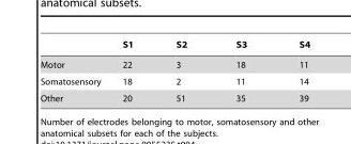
<table><thead><tr><td></td><td>S1</td><td>S2</td><td>S3</td><td>S4</td></tr></thead><tbody><tr><td>Motor</td><td>22</td><td>3</td><td>18</td><td>11</td></tr><tr><td>Somatosensory</td><td>18</td><td>2</td><td>11</td><td>14</td></tr><tr><td>Other</td><td>20</td><td>51</td><td>35</td><td>39</td></tr></tbody></table>